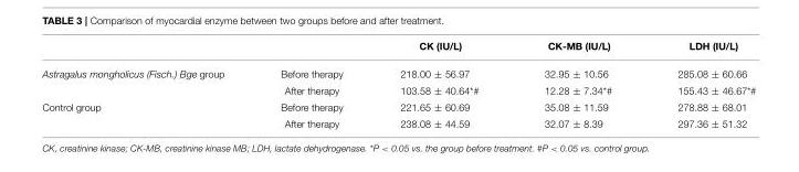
<table><thead><tr><td></td><td></td><td>CK (IU/L)</td><td>CK-MB (IU/L)</td><td>LDH (IU/L)</td></tr></thead><tbody><tr><td rowspan="2">Astragalus mongholicus (Fisch.) Bge group</td><td>Before therapy</td><td>218.00 ± 56.97</td><td>32.95 ± 10.56</td><td>285.08 ± 60.66</td></tr><tr><td>After therapy</td><td>103.58 ± 40.64<sup>*#</sup></td><td>12.28 ± 7.34<sup>*#</sup></td><td>155.43 ± 46.67<sup>*#</sup></td></tr><tr><td rowspan="2">Control group</td><td>Before therapy</td><td>221.65 ± 60.69</td><td>35.08 ± 11.59</td><td>278.88 ± 68.01</td></tr><tr><td>After therapy</td><td>238.08 ± 44.59</td><td>32.07 ± 8.39</td><td>297.36 ± 51.32</td></tr></tbody></table>